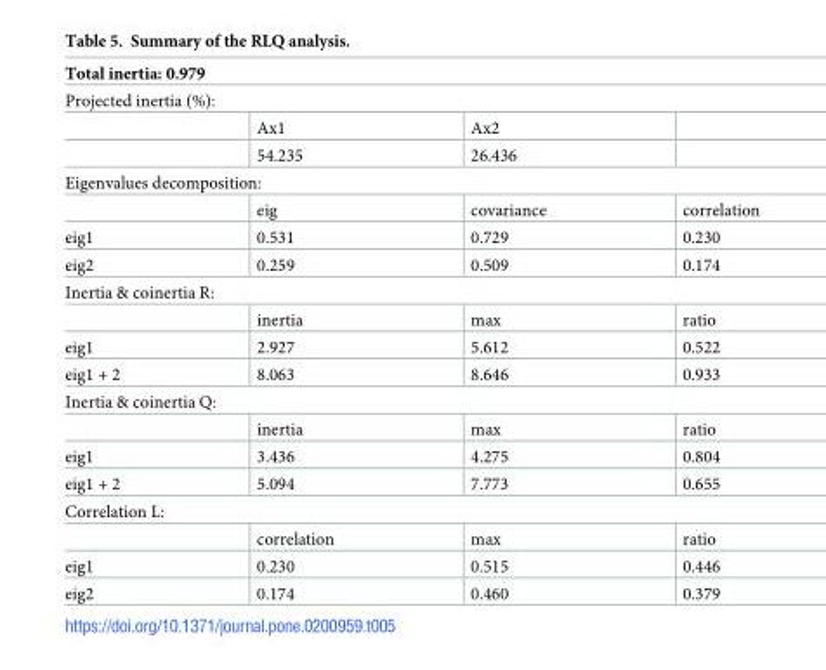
<table><thead><tr><td rowspan="2" colspan="4">Total inertia: 0.979 Projected inertia (%):</td></tr><tr></tr><tr><td></td><td>Ax1</td><td>Ax2</td><td></td></tr></thead><tbody><tr><td></td><td>54.235</td><td>26.436</td><td></td></tr><tr><td colspan="4">Eigenvalues decomposition:</td></tr><tr><td></td><td>eig</td><td>covariance</td><td>correlation</td></tr><tr><td>eig1</td><td>0.531</td><td>0.729</td><td>0.230</td></tr><tr><td>eig2</td><td>0.259</td><td>0.509</td><td>0.174</td></tr><tr><td colspan="4">Inertia &amp; coinertia R:</td></tr><tr><td></td><td>inertia</td><td>max</td><td>ratio</td></tr><tr><td>eig1</td><td>2.927</td><td>5.612</td><td>0.522</td></tr><tr><td>eig1 + 2</td><td>8.063</td><td>8.646</td><td>0.933</td></tr><tr><td colspan="4">Inertia &amp; coinertia Q:</td></tr><tr><td></td><td>inertia</td><td>max</td><td>ratio</td></tr><tr><td>eig1</td><td>3.436</td><td>4.275</td><td>0.804</td></tr><tr><td>eig1 + 2</td><td>5.094</td><td>7.773</td><td>0.655</td></tr><tr><td colspan="4">Correlation L:</td></tr><tr><td></td><td>correlation</td><td>max</td><td>ratio</td></tr><tr><td>eig1</td><td>0.230</td><td>0.515</td><td>0.446</td></tr><tr><td>eig2</td><td>0.174</td><td>0.460</td><td>0.379</td></tr></tbody></table>